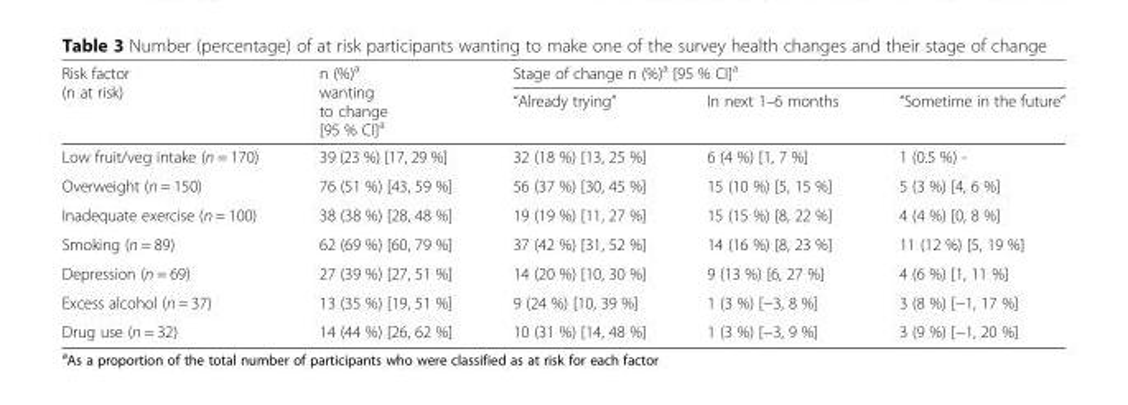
<table><thead><tr><td rowspan="2">Risk factor (n at risk)</td><td rowspan="2">n (%)<sup>a</sup> wanting to change [95 % CI]<sup>a</sup></td><td colspan="3">Stage of change n (%)<sup>a</sup> [95 % CI]<sup>a</sup></td></tr><tr><td>“Already trying”</td><td>In next 1–6 months</td><td>“Sometime in the future”</td></tr></thead><tbody><tr><td>Low fruit/veg intake (n = 170)</td><td>39 (23 %) [17, 29 %]</td><td>32 (18 %) [13, 25 %]</td><td>6 (4 %) [1, 7 %]</td><td>1 (0.5 %) -</td></tr><tr><td>Overweight (n = 150)</td><td>76 (51 %) [43, 59 %]</td><td>56 (37 %) [30, 45 %]</td><td>15 (10 %) [5, 15 %]</td><td>5 (3 %) [4, 6 %]</td></tr><tr><td>Inadequate exercise (n = 100)</td><td>38 (38 %) [28, 48 %]</td><td>19 (19 %) [11, 27 %]</td><td>15 (15 %) [8, 22 %]</td><td>4 (4 %) [0, 8 %]</td></tr><tr><td>Smoking (n = 89)</td><td>62 (69 %) [60, 79 %]</td><td>37 (42 %) [31, 52 %]</td><td>14 (16 %) [8, 23 %]</td><td>11 (12 %) [5, 19 %]</td></tr><tr><td>Depression (n = 69)</td><td>27 (39 %) [27, 51 %]</td><td>14 (20 %) [10, 30 %]</td><td>9 (13 %) [6, 27 %]</td><td>4 (6 %) [1, 11 %]</td></tr><tr><td>Excess alcohol (n = 37)</td><td>13 (35 %) [19, 51 %]</td><td>9 (24 %) [10, 39 %]</td><td>1 (3 %) [−3, 8 %]</td><td>3 (8 %) [−1, 17 %]</td></tr><tr><td>Drug use (n = 32)</td><td>14 (44 %) [26, 62 %]</td><td>10 (31 %) [14, 48 %]</td><td>1 (3 %) [−3, 9 %]</td><td>3 (9 %) [−1, 20 %]</td></tr></tbody></table>